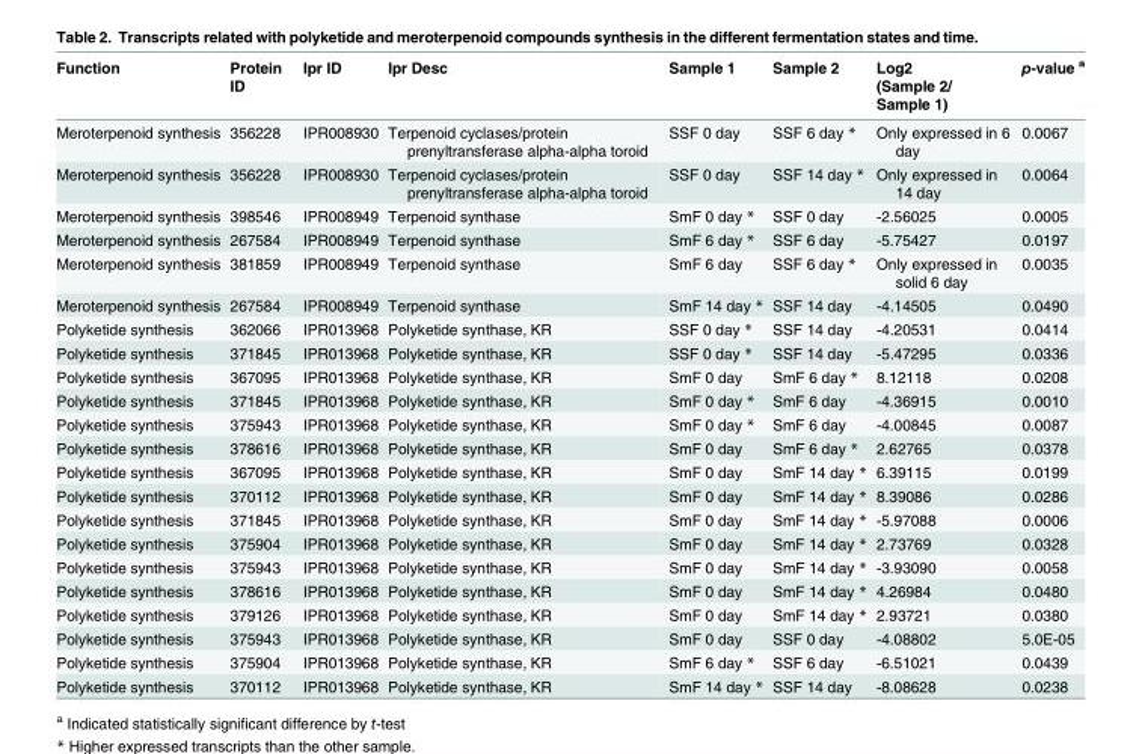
<table><thead><tr><td>Function</td><td>Protein ID</td><td>Ipr ID</td><td>Ipr Desc</td><td>Sample 1</td><td>Sample 2</td><td>Log2 (Sample 2/ Sample 1)</td><td>p-value <sup>a</sup></td></tr></thead><tbody><tr><td>Meroterpenoid synthesis</td><td>356228</td><td>IPR008930</td><td>Terpenoid cyclases/protein prenyltransferase alpha-alpha toroid</td><td>SSF 0 day</td><td>SSF 6 day *</td><td>Only expressed in 6 day</td><td>0.0067</td></tr><tr><td>Meroterpenoid synthesis</td><td>356228</td><td>IPR008930</td><td>Terpenoid cyclases/protein prenyltransferase alpha-alpha toroid</td><td>SSF 0 day</td><td>SSF 14 day *</td><td>Only expressed in 14 day</td><td>0.0064</td></tr><tr><td>Meroterpenoid synthesis</td><td>398546</td><td>IPR008949</td><td>Terpenoid synthase</td><td>SmF 0 day *</td><td>SSF 0 day</td><td>-2.56025</td><td>0.0005</td></tr><tr><td>Meroterpenoid synthesis</td><td>267584</td><td>IPR008949</td><td>Terpenoid synthase</td><td>SmF 6 day *</td><td>SSF 6 day</td><td>-5.75427</td><td>0.0197</td></tr><tr><td>Meroterpenoid synthesis</td><td>381859</td><td>IPR008949</td><td>Terpenoid synthase</td><td>SmF 6 day</td><td>SSF 6 day *</td><td>Only expressed in solid 6 day</td><td>0.0035</td></tr><tr><td>Meroterpenoid synthesis</td><td>267584</td><td>IPR008949</td><td>Terpenoid synthase</td><td>SmF 14 day *</td><td>SSF 14 day</td><td>-4.14505</td><td>0.0490</td></tr><tr><td>Polyketide synthesis</td><td>362066</td><td>IPR013968</td><td>Polyketide synthase, KR</td><td>SSF 0 day *</td><td>SSF 14 day</td><td>-4.20531</td><td>0.0414</td></tr><tr><td>Polyketide synthesis</td><td>371845</td><td>IPR013968</td><td>Polyketide synthase, KR</td><td>SSF 0 day *</td><td>SSF 14 day</td><td>-5.47295</td><td>0.0336</td></tr><tr><td>Polyketide synthesis</td><td>367095</td><td>IPR013968</td><td>Polyketide synthase, KR</td><td>SmF 0 day</td><td>SmF 6 day *</td><td>8.12118</td><td>0.0208</td></tr><tr><td>Polyketide synthesis</td><td>371845</td><td>IPR013968</td><td>Polyketide synthase, KR</td><td>SmF 0 day *</td><td>SmF 6 day</td><td>-4.36915</td><td>0.0010</td></tr><tr><td>Polyketide synthesis</td><td>375943</td><td>IPR013968</td><td>Polyketide synthase, KR</td><td>SmF 0 day *</td><td>SmF 6 day</td><td>-4.00845</td><td>0.0087</td></tr><tr><td>Polyketide synthesis</td><td>378616</td><td>IPR013968</td><td>Polyketide synthase, KR</td><td>SmF 0 day</td><td>SmF 6 day *</td><td>2.62765</td><td>0.0378</td></tr><tr><td>Polyketide synthesis</td><td>367095</td><td>IPR013968</td><td>Polyketide synthase, KR</td><td>SmF 0 day</td><td>SmF 14 day *</td><td>6.39115</td><td>0.0199</td></tr><tr><td>Polyketide synthesis</td><td>370112</td><td>IPR013968</td><td>Polyketide synthase, KR</td><td>SmF 0 day</td><td>SmF 14 day *</td><td>8.39086</td><td>0.0286</td></tr><tr><td>Polyketide synthesis</td><td>371845</td><td>IPR013968</td><td>Polyketide synthase, KR</td><td>SmF 0 day</td><td>SmF 14 day *</td><td>-5.97088</td><td>0.0006</td></tr><tr><td>Polyketide synthesis</td><td>375904</td><td>IPR013968</td><td>Polyketide synthase, KR</td><td>SmF 0 day</td><td>SmF 14 day *</td><td>2.73769</td><td>0.0328</td></tr><tr><td>Polyketide synthesis</td><td>375943</td><td>IPR013968</td><td>Polyketide synthase, KR</td><td>SmF 0 day</td><td>SmF 14 day *</td><td>-3.93090</td><td>0.0058</td></tr><tr><td>Polyketide synthesis</td><td>378616</td><td>IPR013968</td><td>Polyketide synthase, KR</td><td>SmF 0 day</td><td>SmF 14 day *</td><td>4.26984</td><td>0.0480</td></tr><tr><td>Polyketide synthesis</td><td>379126</td><td>IPR013968</td><td>Polyketide synthase, KR</td><td>SmF 0 day</td><td>SmF 14 day *</td><td>2.93721</td><td>0.0380</td></tr><tr><td>Polyketide synthesis</td><td>375943</td><td>IPR013968</td><td>Polyketide synthase, KR</td><td>SmF 0 day</td><td>SSF 0 day</td><td>-4.08802</td><td>5.0E-05</td></tr><tr><td>Polyketide synthesis</td><td>375904</td><td>IPR013968</td><td>Polyketide synthase, KR</td><td>SmF 6 day *</td><td>SSF 6 day</td><td>-6.51021</td><td>0.0439</td></tr><tr><td>Polyketide synthesis</td><td>370112</td><td>IPR013968</td><td>Polyketide synthase, KR</td><td>SmF 14 day *</td><td>SSF 14 day</td><td>-8.08628</td><td>0.0238</td></tr></tbody></table>